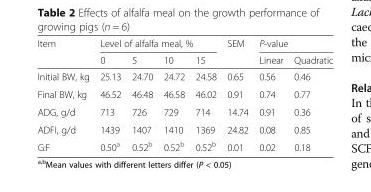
<table><thead><tr><td rowspan="2">Item</td><td colspan="4">Level of alfalfa meal, %</td><td rowspan="2">SEM</td><td colspan="2">P-value</td></tr><tr><td>0</td><td>5</td><td>10</td><td>15</td><td>Linear</td><td>Quadratic</td></tr></thead><tbody><tr><td>Initial BW, kg</td><td>25.13</td><td>24.70</td><td>24.72</td><td>24.58</td><td>0.65</td><td>0.56</td><td>0.46</td></tr><tr><td>Final BW, kg</td><td>46.52</td><td>46.48</td><td>46.58</td><td>46.02</td><td>0.91</td><td>0.74</td><td>0.77</td></tr><tr><td>ADG, g/d</td><td>713</td><td>726</td><td>729</td><td>714</td><td>14.74</td><td>0.91</td><td>0.36</td></tr><tr><td>ADFI, g/d</td><td>1439</td><td>1407</td><td>1410</td><td>1369</td><td>24.82</td><td>0.08</td><td>0.85</td></tr><tr><td>G:F</td><td>0.50<sup>a</sup></td><td>0.52<sup>b</sup></td><td>0.52<sup>b</sup></td><td>0.52<sup>b</sup></td><td>0.01</td><td>0.02</td><td>0.18</td></tr></tbody></table>